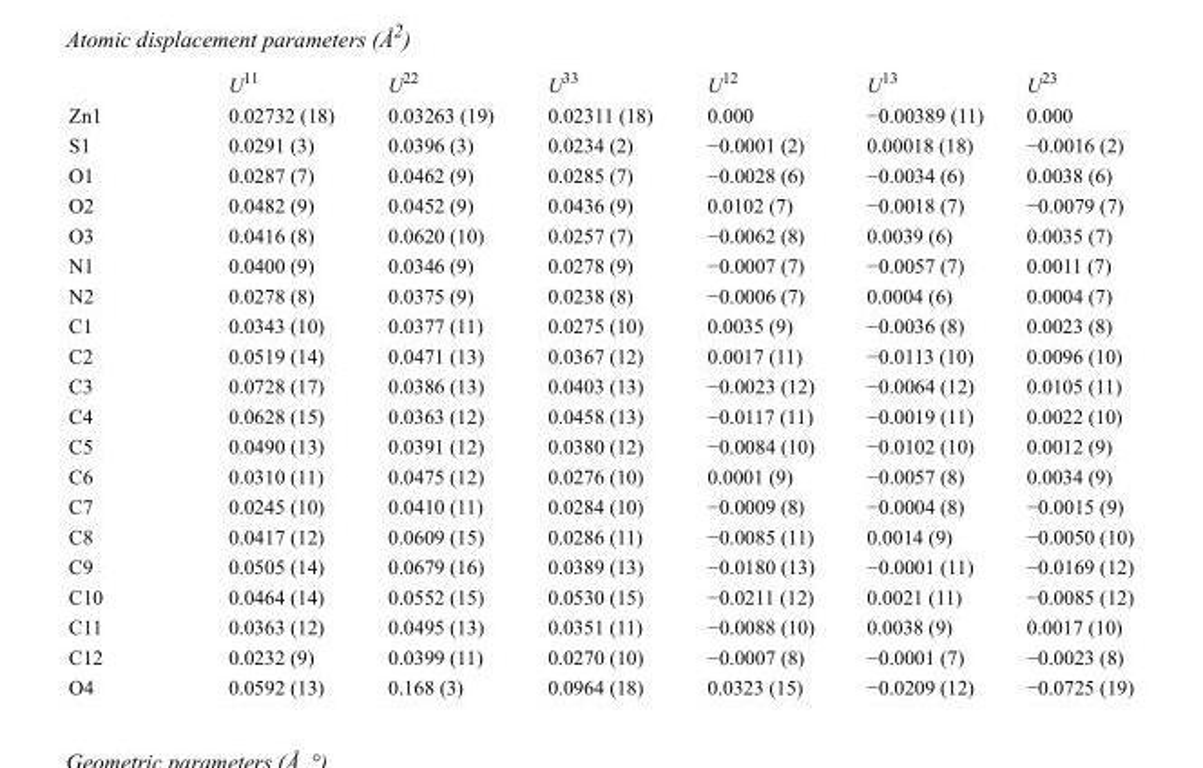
<table><thead><tr><td></td><td>U<sup>11</sup></td><td>U<sup>22</sup></td><td>U<sup>33</sup></td><td>U<sup>12</sup></td><td>U<sup>13</sup></td><td>U<sup>23</sup></td></tr></thead><tbody><tr><td>Zn1</td><td>0.02732 (18)</td><td>0.03263 (19)</td><td>0.02311 (18)</td><td>0.000</td><td>−0.00389 (11)</td><td>0.000</td></tr><tr><td>S1</td><td>0.0291 (3)</td><td>0.0396 (3)</td><td>0.0234 (2)</td><td>−0.0001 (2)</td><td>0.00018 (18)</td><td>−0.0016 (2)</td></tr><tr><td>O1</td><td>0.0287 (7)</td><td>0.0462 (9)</td><td>0.0285 (7)</td><td>−0.0028 (6)</td><td>−0.0034 (6)</td><td>0.0038 (6)</td></tr><tr><td>O2</td><td>0.0482 (9)</td><td>0.0452 (9)</td><td>0.0436 (9)</td><td>0.0102 (7)</td><td>−0.0018 (7)</td><td>−0.0079 (7)</td></tr><tr><td>O3</td><td>0.0416 (8)</td><td>0.0620 (10)</td><td>0.0257 (7)</td><td>−0.0062 (8)</td><td>0.0039 (6)</td><td>0.0035 (7)</td></tr><tr><td>N1</td><td>0.0400 (9)</td><td>0.0346 (9)</td><td>0.0278 (9)</td><td>−0.0007 (7)</td><td>−0.0057 (7)</td><td>0.0011 (7)</td></tr><tr><td>N2</td><td>0.0278 (8)</td><td>0.0375 (9)</td><td>0.0238 (8)</td><td>−0.0006 (7)</td><td>0.0004 (6)</td><td>0.0004 (7)</td></tr><tr><td>C1</td><td>0.0343 (10)</td><td>0.0377 (11)</td><td>0.0275 (10)</td><td>0.0035 (9)</td><td>−0.0036 (8)</td><td>0.0023 (8)</td></tr><tr><td>C2</td><td>0.0519 (14)</td><td>0.0471 (13)</td><td>0.0367 (12)</td><td>0.0017 (11)</td><td>−0.0113 (10)</td><td>0.0096 (10)</td></tr><tr><td>C3</td><td>0.0728 (17)</td><td>0.0386 (13)</td><td>0.0403 (13)</td><td>−0.0023 (12)</td><td>−0.0064 (12)</td><td>0.0105 (11)</td></tr><tr><td>C4</td><td>0.0628 (15)</td><td>0.0363 (12)</td><td>0.0458 (13)</td><td>−0.0117 (11)</td><td>−0.0019 (11)</td><td>0.0022 (10)</td></tr><tr><td>C5</td><td>0.0490 (13)</td><td>0.0391 (12)</td><td>0.0380 (12)</td><td>−0.0084 (10)</td><td>−0.0102 (10)</td><td>0.0012 (9)</td></tr><tr><td>C6</td><td>0.0310 (11)</td><td>0.0475 (12)</td><td>0.0276 (10)</td><td>0.0001 (9)</td><td>−0.0057 (8)</td><td>0.0034 (9)</td></tr><tr><td>C7</td><td>0.0245 (10)</td><td>0.0410 (11)</td><td>0.0284 (10)</td><td>−0.0009 (8)</td><td>−0.0004 (8)</td><td>−0.0015 (9)</td></tr><tr><td>C8</td><td>0.0417 (12)</td><td>0.0609 (15)</td><td>0.0286 (11)</td><td>−0.0085 (11)</td><td>0.0014 (9)</td><td>−0.0050 (10)</td></tr><tr><td>C9</td><td>0.0505 (14)</td><td>0.0679 (16)</td><td>0.0389 (13)</td><td>−0.0180 (13)</td><td>−0.0001 (11)</td><td>−0.0169 (12)</td></tr><tr><td>C10</td><td>0.0464 (14)</td><td>0.0552 (15)</td><td>0.0530 (15)</td><td>−0.0211 (12)</td><td>0.0021 (11)</td><td>−0.0085 (12)</td></tr><tr><td>C11</td><td>0.0363 (12)</td><td>0.0495 (13)</td><td>0.0351 (11)</td><td>−0.0088 (10)</td><td>0.0038 (9)</td><td>0.0017 (10)</td></tr><tr><td>C12</td><td>0.0232 (9)</td><td>0.0399 (11)</td><td>0.0270 (10)</td><td>−0.0007 (8)</td><td>−0.0001 (7)</td><td>−0.0023 (8)</td></tr><tr><td>O4</td><td>0.0592 (13)</td><td>0.168 (3)</td><td>0.0964 (18)</td><td>0.0323 (15)</td><td>−0.0209 (12)</td><td>−0.0725 (19)</td></tr></tbody></table>